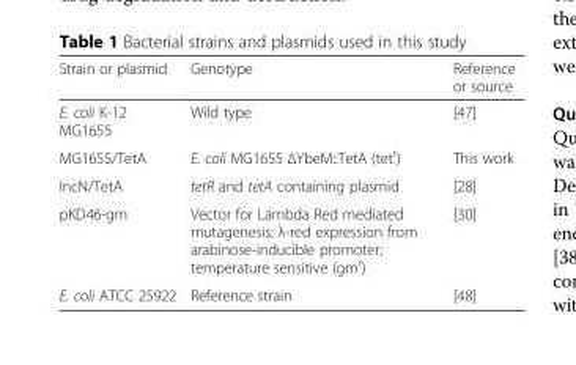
<table><thead><tr><td>Strain or plasmid</td><td>Genotype</td><td>Reference or source</td></tr></thead><tbody><tr><td>E. coli K-12 MG1655</td><td>Wild type</td><td>[47]</td></tr><tr><td>MG1655/TetA</td><td>E. coli MG1655 ΔYbeM::TetA (tetr)</td><td>This work</td></tr><tr><td>IncN/TetA</td><td>tetR and tetA containing plasmid</td><td>[28]</td></tr><tr><td>pKD46-gm</td><td>Vector for Lambda Red mediated mutagenesis: λ-red expression from arabinose-inducible promoter; temperature sensitive (gm<sup>r</sup>)</td><td>[30]</td></tr><tr><td>E. coli ATCC 25922</td><td>Reference strain</td><td>[48]</td></tr></tbody></table>